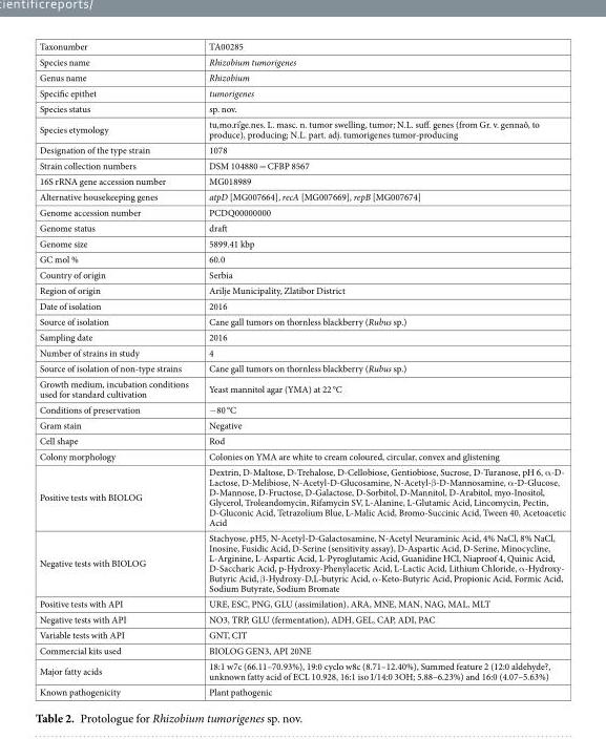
<table><tbody><tr><td>Taxonumber</td><td>TA00285</td></tr><tr><td>Species name</td><td>Rhizobium tumorigenes</td></tr><tr><td>Genus name</td><td>Rhizobium</td></tr><tr><td>Specific epithet</td><td>tumorigenes</td></tr><tr><td>Species status</td><td>sp. nov.</td></tr><tr><td>Species etymology</td><td>tu,mo.ri’ge.nes. L. masc. n. tumor swelling, tumor; N.L. suff. genes (from Gr. v. gennaô, to produce), producing; N.L. part. adj. tumorigenes tumor-producing</td></tr><tr><td>Designation of the type strain</td><td>1078</td></tr><tr><td>Strain collection numbers</td><td>DSM 104880 = CFBP 8567</td></tr><tr><td>16S rRNA gene accession number</td><td>MG018989</td></tr><tr><td>Alternative housekeeping genes</td><td>atpD [MG007664], recA [MG007669], repB [MG007674]</td></tr><tr><td>Genome accession number</td><td>PCDQ00000000</td></tr><tr><td>Genome status</td><td>draft</td></tr><tr><td>Genome size</td><td>5899.41 kbp</td></tr><tr><td>GC mol %</td><td>60.0</td></tr><tr><td>Country of origin</td><td>Serbia</td></tr><tr><td>Region of origin</td><td>Arilje Municipality, Zlatibor District</td></tr><tr><td>Date of isolation</td><td>2016</td></tr><tr><td>Source of isolation</td><td>Cane gall tumors on thornless blackberry (Rubus sp.)</td></tr><tr><td>Sampling date</td><td>2016</td></tr><tr><td>Number of strains in study</td><td>4</td></tr><tr><td>Source of isolation of non-type strains</td><td>Cane gall tumors on thornless blackberry (Rubus sp.)</td></tr><tr><td>Growth medium, incubation conditions used for standard cultivation</td><td>Yeast mannitol agar (YMA) at 22 °C</td></tr><tr><td>Conditions of preservation</td><td>−80 °C</td></tr><tr><td>Gram stain</td><td>Negative</td></tr><tr><td>Cell shape</td><td>Rod</td></tr><tr><td>Colony morphology</td><td>Colonies on YMA are white to cream coloured, circular, convex and glistening</td></tr><tr><td>Positive tests with BIOLOG</td><td>Dextrin, D-Maltose, D-Trehalose, D-Cellobiose, Gentiobiose, Sucrose, D-Turanose, pH 6, α-D- Lactose, D-Melibiose, N-Acetyl-D-Glucosamine, N-Acetyl-β-D-Mannosamine, α-D-Glucose, D-Mannose, D-Fructose, D-Galactose, D-Sorbitol, D-Mannitol, D-Arabitol, myo-Inositol, Glycerol, Troleandomycin, Rifamycin SV, L-Alanine, L-Glutamic Acid, Lincomycin, Pectin, D-Gluconic Acid, Tetrazolium Blue, L-Malic Acid, Bromo-Succinic Acid, Tween 40, Acetoacetic Acid</td></tr><tr><td>Negative tests with BIOLOG</td><td>Stachyose, pH5, N-Acetyl-D-Galactosamine, N-Acetyl Neuraminic Acid, 4% NaCl, 8% NaCl, Inosine, Fusidic Acid, D-Serine (sensitivity assay), D-Aspartic Acid, D-Serine, Minocycline, L-Arginine, L-Aspartic Acid, L-Pyroglutamic Acid, Guanidine HCl, Niaproof 4, Quinic Acid, D-Saccharic Acid, p-Hydroxy-Phenylacetic Acid, L-Lactic Acid, Lithium Chloride, α-Hydroxy- Butyric Acid, β-Hydroxy-D,L-butyric Acid, α-Keto-Butyric Acid, Propionic Acid, Formic Acid, Sodium Butyrate, Sodium Bromate</td></tr><tr><td>Positive tests with API</td><td>URE, ESC, PNG, GLU (assimilation), ARA, MNE, MAN, NAG, MAL, MLT</td></tr><tr><td>Negative tests with API</td><td>NO3, TRP, GLU (fermentation), ADH, GEL, CAP, ADI, PAC</td></tr><tr><td>Variable tests with API</td><td>GNT, CIT</td></tr><tr><td>Commercial kits used</td><td>BIOLOG GEN3, API 20NE</td></tr><tr><td>Major fatty acids</td><td>18:1 w7c (66.11–70.93%), 19:0 cyclo w8c (8.71–12.40%), Summed feature 2 (12:0 aldehyde?, unknown fatty acid of ECL 10.928, 16:1 iso I/14:0 3OH; 5.88–6.23%) and 16:0 (4.07–5.63%)</td></tr><tr><td>Known pathogenicity</td><td>Plant pathogenic</td></tr></tbody></table>